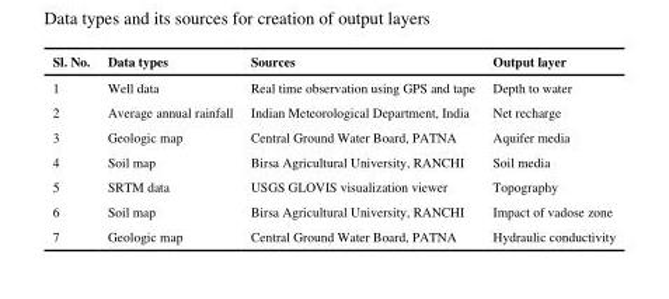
<table><thead><tr><td>Sl. No.</td><td>Data types</td><td>Sources</td><td>Output layer</td></tr></thead><tbody><tr><td>1</td><td>Well data</td><td>Real time observation using GPS and tape</td><td>Depth to water</td></tr><tr><td>2</td><td>Average annual rainfall</td><td>Indian Meteorological Department, India</td><td>Net recharge</td></tr><tr><td>3</td><td>Geologic map</td><td>Central Ground Water Board, PATNA</td><td>Aquifer media</td></tr><tr><td>4</td><td>Soil map</td><td>Birsa Agricultural University, RANCHI</td><td>Soil media</td></tr><tr><td>5</td><td>SRTM data</td><td>USGS GLOVIS visualization viewer</td><td>Topography</td></tr><tr><td>6</td><td>Soil map</td><td>Birsa Agricultural University, RANCHI</td><td>Impact of vadose zone</td></tr><tr><td>7</td><td>Geologic map</td><td>Central Ground Water Board, PATNA</td><td>Hydraulic conductivity</td></tr></tbody></table>